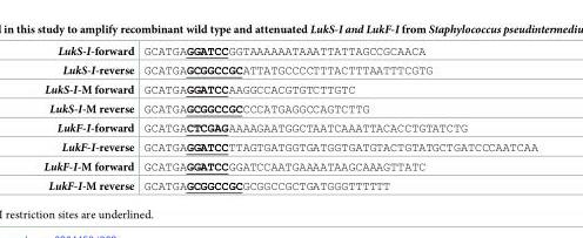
<table><tbody><tr><td>LukS-I-forward</td><td>GCATGAGGATCCGGTAAAAAATAAATTATTAGCCGCAACA</td></tr><tr><td>LukS-I-reverse</td><td>GCATGAGCGGCCGCATTATGCCCCTTTACTTTAATTTCGTG</td></tr><tr><td>LukS-I-M forward</td><td>GCATGAGGATCCAAGGCCACGTGTCTTGTC</td></tr><tr><td>LukS-I-M reverse</td><td>GCATGAGCGGCCGCCCCATGAGGCCAGTCTTG</td></tr><tr><td>LukF-I-forward</td><td>GCATGACTCGAGAAAAGAATGGCTAATCAAATTACACCTGTATCTG</td></tr><tr><td>LukF-I-reverse</td><td>GCATGAGGATCCTTAGTGATGGTGATGGTGATGTACTGTATGCTGATCCCAATCAA</td></tr><tr><td>LukF-I-M forward</td><td>GCATGAGGATCCGGATCCAATGAAAATAAGCAAAGTTATC</td></tr><tr><td>LukF-I-M reverse</td><td>GCATGAGCGGCCGCGCGGCCGCTGATGGGTTTTTT</td></tr></tbody></table>